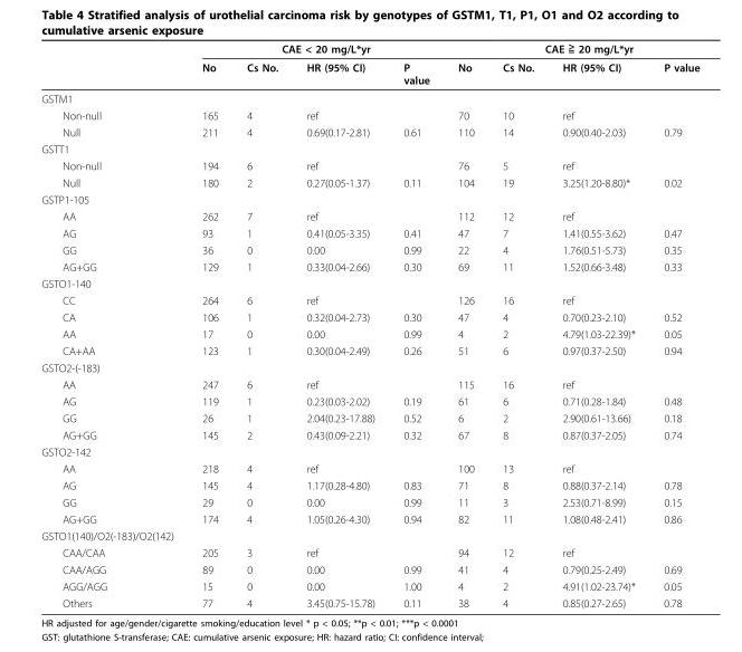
<table><thead><tr><td rowspan="2"></td><td colspan="4">CAE &lt; 20 mg/L*yr</td><td colspan="4">CAE ≧ 20 mg/L*yr</td></tr><tr><td>No</td><td>Cs No.</td><td>HR (95% CI)</td><td>P value</td><td>No</td><td>Cs No.</td><td>HR (95% CI)</td><td>P value</td></tr></thead><tbody><tr><td colspan="9">GSTM1</td></tr><tr><td>Non-null</td><td>165</td><td>4</td><td>ref</td><td></td><td>70</td><td>10</td><td>ref</td><td></td></tr><tr><td>Null</td><td>211</td><td>4</td><td>0.69(0.17-2.81)</td><td>0.61</td><td>110</td><td>14</td><td>0.90(0.40-2.03)</td><td>0.79</td></tr><tr><td colspan="9">GSTT1</td></tr><tr><td>Non-null</td><td>194</td><td>6</td><td>ref</td><td></td><td>76</td><td>5</td><td>ref</td><td></td></tr><tr><td>Null</td><td>180</td><td>2</td><td>0.27(0.05-1.37)</td><td>0.11</td><td>104</td><td>19</td><td>3.25(1.20-8.80)*</td><td>0.02</td></tr><tr><td colspan="9">GSTP1-105</td></tr><tr><td>AA</td><td>262</td><td>7</td><td>ref</td><td></td><td>112</td><td>12</td><td>ref</td><td></td></tr><tr><td>AG</td><td>93</td><td>1</td><td>0.41(0.05-3.35)</td><td>0.41</td><td>47</td><td>7</td><td>1.41(0.55-3.62)</td><td>0.47</td></tr><tr><td>GG</td><td>36</td><td>0</td><td>0.00</td><td>0.99</td><td>22</td><td>4</td><td>1.76(0.51-5.73)</td><td>0.35</td></tr><tr><td>AG+GG</td><td>129</td><td>1</td><td>0.33(0.04-2.66)</td><td>0.30</td><td>69</td><td>11</td><td>1.52(0.66-3.48)</td><td>0.33</td></tr><tr><td colspan="9">GSTO1-140</td></tr><tr><td>CC</td><td>264</td><td>6</td><td>ref</td><td></td><td>126</td><td>16</td><td>ref</td><td></td></tr><tr><td>CA</td><td>106</td><td>1</td><td>0.32(0.04-2.73)</td><td>0.30</td><td>47</td><td>4</td><td>0.70(0.23-2.10)</td><td>0.52</td></tr><tr><td>AA</td><td>17</td><td>0</td><td>0.00</td><td>0.99</td><td>4</td><td>2</td><td>4.79(1.03-22.39)*</td><td>0.05</td></tr><tr><td>CA+AA</td><td>123</td><td>1</td><td>0.30(0.04-2.49)</td><td>0.26</td><td>51</td><td>6</td><td>0.97(0.37-2.50)</td><td>0.94</td></tr><tr><td colspan="9">GSTO2-(-183)</td></tr><tr><td>AA</td><td>247</td><td>6</td><td>ref</td><td></td><td>115</td><td>16</td><td>ref</td><td></td></tr><tr><td>AG</td><td>119</td><td>1</td><td>0.23(0.03-2.02)</td><td>0.19</td><td>61</td><td>6</td><td>0.71(0.28-1.84)</td><td>0.48</td></tr><tr><td>GG</td><td>26</td><td>1</td><td>2.04(0.23-17.88)</td><td>0.52</td><td>6</td><td>2</td><td>2.90(0.61-13.66)</td><td>0.18</td></tr><tr><td>AG+GG</td><td>145</td><td>2</td><td>0.43(0.09-2.21)</td><td>0.32</td><td>67</td><td>8</td><td>0.87(0.37-2.05)</td><td>0.74</td></tr><tr><td colspan="9">GSTO2-142</td></tr><tr><td>AA</td><td>218</td><td>4</td><td>ref</td><td></td><td>100</td><td>13</td><td>ref</td><td></td></tr><tr><td>AG</td><td>145</td><td>4</td><td>1.17(0.28-4.80)</td><td>0.83</td><td>71</td><td>8</td><td>0.88(0.37-2.14)</td><td>0.78</td></tr><tr><td>GG</td><td>29</td><td>0</td><td>0.00</td><td>0.99</td><td>11</td><td>3</td><td>2.53(0.71-8.99)</td><td>0.15</td></tr><tr><td>AG+GG</td><td>174</td><td>4</td><td>1.05(0.26-4.30)</td><td>0.94</td><td>82</td><td>11</td><td>1.08(0.48-2.41)</td><td>0.86</td></tr><tr><td colspan="9">GSTO1(140)/O2(-183)/O2(142)</td></tr><tr><td>CAA/CAA</td><td>205</td><td>3</td><td>ref</td><td></td><td>94</td><td>12</td><td>ref</td><td></td></tr><tr><td>CAA/AGG</td><td>89</td><td>0</td><td>0.00</td><td>0.99</td><td>41</td><td>4</td><td>0.79(0.25-2.49)</td><td>0.69</td></tr><tr><td>AGG/AGG</td><td>15</td><td>0</td><td>0.00</td><td>1.00</td><td>4</td><td>2</td><td>4.91(1.02-23.74)*</td><td>0.05</td></tr><tr><td>Others</td><td>77</td><td>4</td><td>3.45(0.75-15.78)</td><td>0.11</td><td>38</td><td>4</td><td>0.85(0.27-2.65)</td><td>0.78</td></tr></tbody></table>